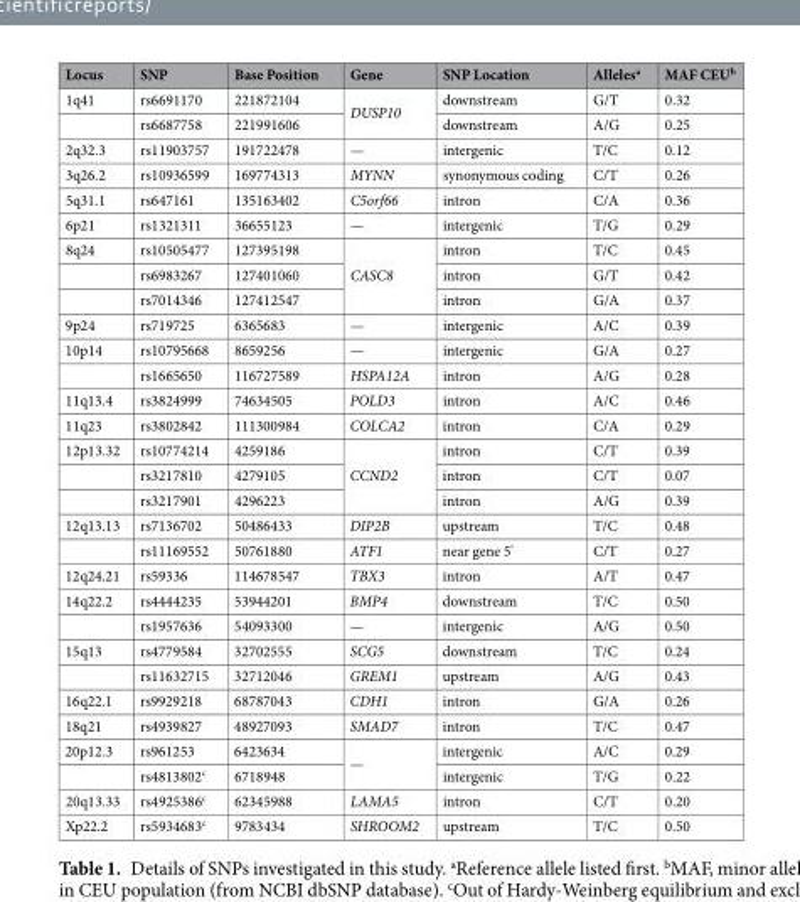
<table><thead><tr><td>Locus</td><td>SNP</td><td>Base Position</td><td>Gene</td><td>SNP Location</td><td>Alleles<sup>a</sup></td><td>MAF CEU<sup>b</sup></td></tr></thead><tbody><tr><td rowspan="2">1q41</td><td>rs6691170</td><td>221872104</td><td rowspan="2">DUSP10</td><td>downstream</td><td>G/T</td><td>0.32</td></tr><tr><td>rs6687758</td><td>221991606</td><td>downstream</td><td>A/G</td><td>0.25</td></tr><tr><td>2q32.3</td><td>rs11903757</td><td>191722478</td><td>—</td><td>intergenic</td><td>T/C</td><td>0.12</td></tr><tr><td>3q26.2</td><td>rs10936599</td><td>169774313</td><td>MYNN</td><td>synonymous coding</td><td>C/T</td><td>0.26</td></tr><tr><td>5q31.1</td><td>rs647161</td><td>135163402</td><td>C5orf66</td><td>intron</td><td>C/A</td><td>0.36</td></tr><tr><td>6p21</td><td>rs1321311</td><td>36655123</td><td>—</td><td>intergenic</td><td>T/G</td><td>0.29</td></tr><tr><td rowspan="3">8q24</td><td>rs10505477</td><td>127395198</td><td rowspan="3">CASC8</td><td>intron</td><td>T/C</td><td>0.45</td></tr><tr><td>rs6983267</td><td>127401060</td><td>intron</td><td>G/T</td><td>0.42</td></tr><tr><td>rs7014346</td><td>127412547</td><td>intron</td><td>G/A</td><td>0.37</td></tr><tr><td>9p24</td><td>rs719725</td><td>6365683</td><td>—</td><td>intergenic</td><td>A/C</td><td>0.39</td></tr><tr><td rowspan="2">10p14</td><td>rs10795668</td><td>8659256</td><td>—</td><td>intergenic</td><td>G/A</td><td>0.27</td></tr><tr><td>rs1665650</td><td>116727589</td><td>HSPA12A</td><td>intron</td><td>A/G</td><td>0.28</td></tr><tr><td>11q13.4</td><td>rs3824999</td><td>74634505</td><td>POLD3</td><td>intron</td><td>A/C</td><td>0.46</td></tr><tr><td>11q23</td><td>rs3802842</td><td>111300984</td><td>COLCA2</td><td>intron</td><td>C/A</td><td>0.29</td></tr><tr><td rowspan="3">12p13.32</td><td>rs10774214</td><td>4259186</td><td rowspan="3">CCND2</td><td>intron</td><td>C/T</td><td>0.39</td></tr><tr><td>rs3217810</td><td>4279105</td><td>intron</td><td>C/T</td><td>0.07</td></tr><tr><td>rs3217901</td><td>4296223</td><td>intron</td><td>A/G</td><td>0.39</td></tr><tr><td rowspan="2">12q13.13</td><td>rs7136702</td><td>50486433</td><td>DIP2B</td><td>upstream</td><td>T/C</td><td>0.48</td></tr><tr><td>rs11169552</td><td>50761880</td><td>ATF1</td><td>near gene 5&#x27;</td><td>C/T</td><td>0.27</td></tr><tr><td>12q24.21</td><td>rs59336</td><td>114678547</td><td>TBX3</td><td>intron</td><td>A/T</td><td>0.47</td></tr><tr><td rowspan="2">14q22.2</td><td>rs4444235</td><td>53944201</td><td>BMP4</td><td>downstream</td><td>T/C</td><td>0.50</td></tr><tr><td>rs1957636</td><td>54093300</td><td>—</td><td>intergenic</td><td>A/G</td><td>0.50</td></tr><tr><td rowspan="2">15q13</td><td>rs4779584</td><td>32702555</td><td>SCG5</td><td>downstream</td><td>T/C</td><td>0.24</td></tr><tr><td>rs11632715</td><td>32712046</td><td>GREM1</td><td>upstream</td><td>A/G</td><td>0.43</td></tr><tr><td>16q22.1</td><td>rs9929218</td><td>68787043</td><td>CDH1</td><td>intron</td><td>G/A</td><td>0.26</td></tr><tr><td>18q21</td><td>rs4939827</td><td>48927093</td><td>SMAD7</td><td>intron</td><td>T/C</td><td>0.47</td></tr><tr><td rowspan="2">20p12.3</td><td>rs961253</td><td>6423634</td><td rowspan="2">—</td><td>intergenic</td><td>A/C</td><td>0.29</td></tr><tr><td>rs4813802<sup>c</sup></td><td>6718948</td><td>intergenic</td><td>T/G</td><td>0.22</td></tr><tr><td>20q13.33</td><td>rs4925386<sup>c</sup></td><td>62345988</td><td>LAMA5</td><td>intron</td><td>C/T</td><td>0.20</td></tr><tr><td>Xp22.2</td><td>rs5934683<sup>c</sup></td><td>9783434</td><td>SHROOM2</td><td>upstream</td><td>T/C</td><td>0.50</td></tr></tbody></table>